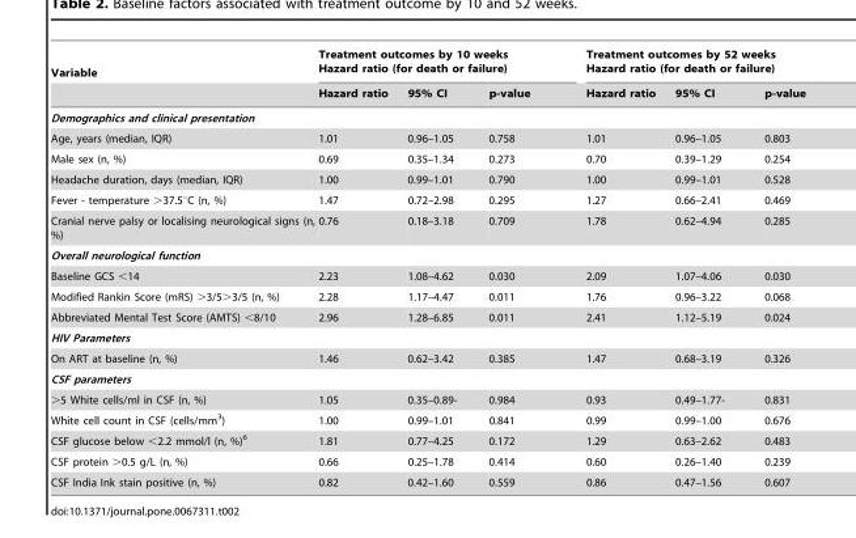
<table><thead><tr><td rowspan="2">Variable</td><td colspan="3">Treatment outcomes by 10 weeks Hazard ratio (for death or failure)</td><td colspan="3">Treatment outcomes by 52 weeks Hazard ratio (for death or failure)</td></tr><tr><td>Hazard ratio</td><td>95% CI</td><td>p-value</td><td>Hazard ratio</td><td>95% CI</td><td>p-value</td></tr></thead><tbody><tr><td colspan="7">Demographics and clinical presentation</td></tr><tr><td>Age, years (median, IQR)</td><td>1.01</td><td>0.96–1.05</td><td>0.758</td><td>1.01</td><td>0.96–1.05</td><td>0.803</td></tr><tr><td>Male sex (n, %)</td><td>0.69</td><td>0.35–1.34</td><td>0.273</td><td>0.70</td><td>0.39–1.29</td><td>0.254</td></tr><tr><td>Headache duration, days (median, IQR)</td><td>1.00</td><td>0.99–1.01</td><td>0.790</td><td>1.00</td><td>0.99–1.01</td><td>0.528</td></tr><tr><td>Fever - temperature &gt;37.5°C (n, %)</td><td>1.47</td><td>0.72–2.98</td><td>0.295</td><td>1.27</td><td>0.66–2.41</td><td>0.469</td></tr><tr><td>Cranial nerve palsy or localising neurological signs (n, %)</td><td>0.76</td><td>0.18–3.18</td><td>0.709</td><td>1.78</td><td>0.62–4.94</td><td>0.285</td></tr><tr><td colspan="7">Overall neurological function</td></tr><tr><td>Baseline GCS &lt;14</td><td>2.23</td><td>1.08–4.62</td><td>0.030</td><td>2.09</td><td>1.07–4.06</td><td>0.030</td></tr><tr><td>Modified Rankin Score (mRS) &gt;3/5&gt;3/5 (n, %)</td><td>2.28</td><td>1.17–4.47</td><td>0.011</td><td>1.76</td><td>0.96–3.22</td><td>0.068</td></tr><tr><td>Abbreviated Mental Test Score (AMTS) &lt;8/10</td><td>2.96</td><td>1.28–6.85</td><td>0.011</td><td>2.41</td><td>1.12–5.19</td><td>0.024</td></tr><tr><td colspan="7">HIV Parameters</td></tr><tr><td>On ART at baseline (n, %)</td><td>1.46</td><td>0.62–3.42</td><td>0.385</td><td>1.47</td><td>0.68–3.19</td><td>0.326</td></tr><tr><td colspan="7">CSF parameters</td></tr><tr><td>&gt;5 White cells/ml in CSF (n, %)</td><td>1.05</td><td>0.35–0.89-</td><td>0.984</td><td>0.93</td><td>0.49–1.77-</td><td>0.831</td></tr><tr><td>White cell count in CSF (cells/mm<sup>3</sup>)</td><td>1.00</td><td>0.99–1.01</td><td>0.841</td><td>0.99</td><td>0.99–1.00</td><td>0.676</td></tr><tr><td>CSF glucose below &lt;2.2 mmol/l (n, %)<sup>6</sup></td><td>1.81</td><td>0.77–4.25</td><td>0.172</td><td>1.29</td><td>0.63–2.62</td><td>0.483</td></tr><tr><td>CSF protein &gt;0.5 g/L (n, %)</td><td>0.66</td><td>0.25–1.78</td><td>0.414</td><td>0.60</td><td>0.26–1.40</td><td>0.239</td></tr><tr><td>CSF India Ink stain positive (n, %)</td><td>0.82</td><td>0.42–1.60</td><td>0.559</td><td>0.86</td><td>0.47–1.56</td><td>0.607</td></tr></tbody></table>